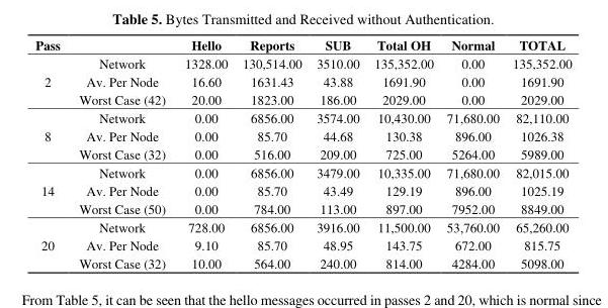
<table><thead><tr><td>Pass</td><td></td><td>Hello</td><td>Reports</td><td>SUB</td><td>Total OH</td><td>Normal</td><td>TOTAL</td></tr></thead><tbody><tr><td rowspan="3">2</td><td>Network</td><td>1328.00</td><td>130,514.00</td><td>3510.00</td><td>135,352.00</td><td>0.00</td><td>135,352.00</td></tr><tr><td>Av. Per Node</td><td>16.60</td><td>1631.43</td><td>43.88</td><td>1691.90</td><td>0.00</td><td>1691.90</td></tr><tr><td>Worst Case (42)</td><td>20.00</td><td>1823.00</td><td>186.00</td><td>2029.00</td><td>0.00</td><td>2029.00</td></tr><tr><td rowspan="3">8</td><td>Network</td><td>0.00</td><td>6856.00</td><td>3574.00</td><td>10,430.00</td><td>71,680.00</td><td>82,110.00</td></tr><tr><td>Av. Per Node</td><td>0.00</td><td>85.70</td><td>44.68</td><td>130.38</td><td>896.00</td><td>1026.38</td></tr><tr><td>Worst Case (32)</td><td>0.00</td><td>516.00</td><td>209.00</td><td>725.00</td><td>5264.00</td><td>5989.00</td></tr><tr><td rowspan="3">14</td><td>Network</td><td>0.00</td><td>6856.00</td><td>3479.00</td><td>10,335.00</td><td>71,680.00</td><td>82,015.00</td></tr><tr><td>Av. Per Node</td><td>0.00</td><td>85.70</td><td>43.49</td><td>129.19</td><td>896.00</td><td>1025.19</td></tr><tr><td>Worst Case (50)</td><td>0.00</td><td>784.00</td><td>113.00</td><td>897.00</td><td>7952.00</td><td>8849.00</td></tr><tr><td rowspan="3">20</td><td>Network</td><td>728.00</td><td>6856.00</td><td>3916.00</td><td>11,500.00</td><td>53,760.00</td><td>65,260.00</td></tr><tr><td>Av. Per Node</td><td>9.10</td><td>85.70</td><td>48.95</td><td>143.75</td><td>672.00</td><td>815.75</td></tr><tr><td>Worst Case (32)</td><td>10.00</td><td>564.00</td><td>240.00</td><td>814.00</td><td>4284.00</td><td>5098.00</td></tr></tbody></table>